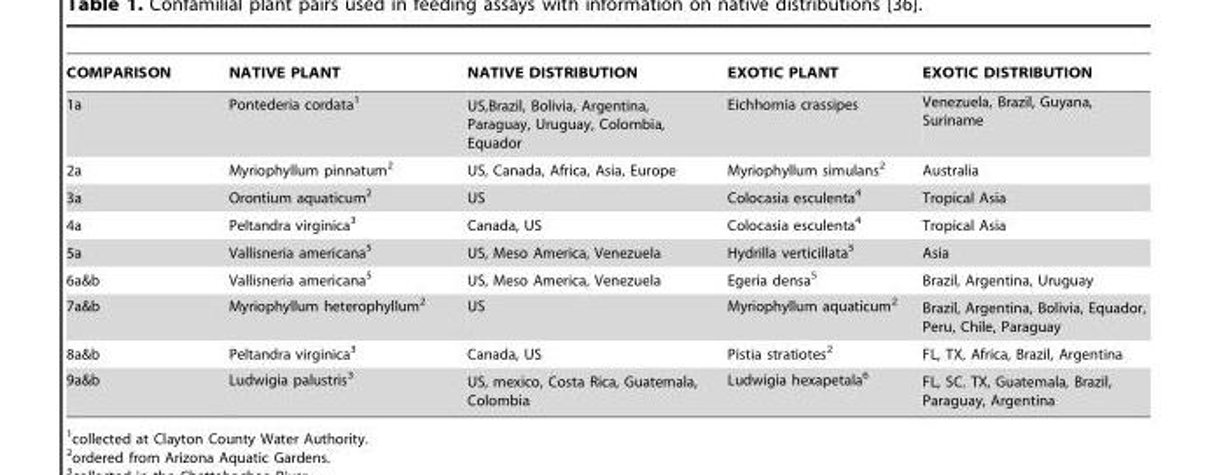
<table><thead><tr><td>COMPARISON</td><td>NATIVE PLANT</td><td>NATIVE DISTRIBUTION</td><td>EXOTIC PLANT</td><td>EXOTIC DISTRIBUTION</td></tr></thead><tbody><tr><td>1a</td><td>Pontederia cordata<sup>1</sup></td><td>US,Brazil, Bolivia, Argentina, Paraguay, Uruguay, Colombia, Equador</td><td>Eichhornia crassipes</td><td>Venezuela, Brazil, Guyana, Suriname</td></tr><tr><td>2a</td><td>Myriophyllum pinnatum<sup>2</sup></td><td>US, Canada, Africa, Asia, Europe</td><td>Myriophyllum simulans<sup>2</sup></td><td>Australia</td></tr><tr><td>3a</td><td>Orontium aquaticum<sup>2</sup></td><td>US</td><td>Colocasia esculenta<sup>4</sup></td><td>Tropical Asia</td></tr><tr><td>4a</td><td>Peltandra virginica<sup>3</sup></td><td>Canada, US</td><td>Colocasia esculenta<sup>4</sup></td><td>Tropical Asia</td></tr><tr><td>5a</td><td>Vallisneria americana<sup>5</sup></td><td>US, Meso America, Venezuela</td><td>Hydrilla verticillata<sup>5</sup></td><td>Asia</td></tr><tr><td>6a&amp;b</td><td>Vallisneria americana<sup>5</sup></td><td>US, Meso America, Venezuela</td><td>Egeria densa<sup>5</sup></td><td>Brazil, Argentina, Uruguay</td></tr><tr><td>7a&amp;b</td><td>Myriophyllum heterophyllum<sup>2</sup></td><td>US</td><td>Myriophyllum aquaticum<sup>2</sup></td><td>Brazil, Argentina, Bolivia, Equador, Peru, Chile, Paraguay</td></tr><tr><td>8a&amp;b</td><td>Peltandra virginica<sup>3</sup></td><td>Canada, US</td><td>Pistia stratiotes<sup>2</sup></td><td>FL, TX, Africa, Brazil, Argentina</td></tr><tr><td>9a&amp;b</td><td>Ludwigia palustris<sup>3</sup></td><td>US, mexico, Costa Rica, Guatemala, Colombia</td><td>Ludwigia hexapetala<sup>6</sup></td><td>FL, SC. TX, Guatemala, Brazil, Paraguay, Argentina</td></tr></tbody></table>